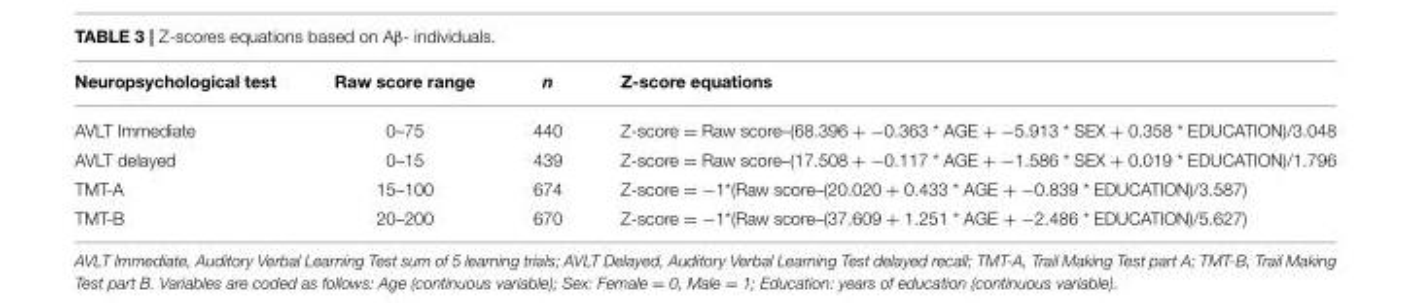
<table><thead><tr><td>Neuropsychological test</td><td>Raw score range</td><td>n</td><td>Z-score equations</td></tr></thead><tbody><tr><td>AVLT Immediate</td><td>0–75</td><td>440</td><td>Z-score = Raw score–(68.396 + −0.363 * AGE + −5.913 * SEX + 0.358 * EDUCATION)/3.048</td></tr><tr><td>AVLT delayed</td><td>0–15</td><td>439</td><td>Z-score = Raw score–(17.508 + −0.117 * AGE + −1.586 * SEX + 0.019 * EDUCATION)/1.796</td></tr><tr><td>TMT-A</td><td>15–100</td><td>674</td><td>Z-score = −1*(Raw score–(20.020 + 0.433 * AGE + −0.839 * EDUCATION)/3.587)</td></tr><tr><td>TMT-B</td><td>20–200</td><td>670</td><td>Z-score = −1*(Raw score–(37.609 + 1.251 * AGE + −2.486 * EDUCATION)/5.627)</td></tr></tbody></table>